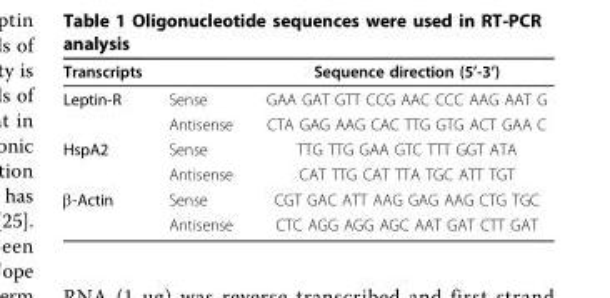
<table><thead><tr><td>Transcripts</td><td></td><td>Sequence direction (5’-3’)</td></tr></thead><tbody><tr><td rowspan="2">Leptin-R</td><td>Sense</td><td>GAA GAT GTT CCG AAC CCC AAG AAT G</td></tr><tr><td>Antisense</td><td>CTA GAG AAG CAC TTG GTG ACT GAA C</td></tr><tr><td rowspan="2">HspA2</td><td>Sense</td><td>TTG TTG GAA GTC TTT GGT ATA</td></tr><tr><td>Antisense</td><td>CAT TTG CAT TTA TGC ATT TGT</td></tr><tr><td rowspan="2">β-Actin</td><td>Sense</td><td>CGT GAC ATT AAG GAG AAG CTG TGC</td></tr><tr><td>Antisense</td><td>CTC AGG AGG AGC AAT GAT CTT GAT</td></tr></tbody></table>